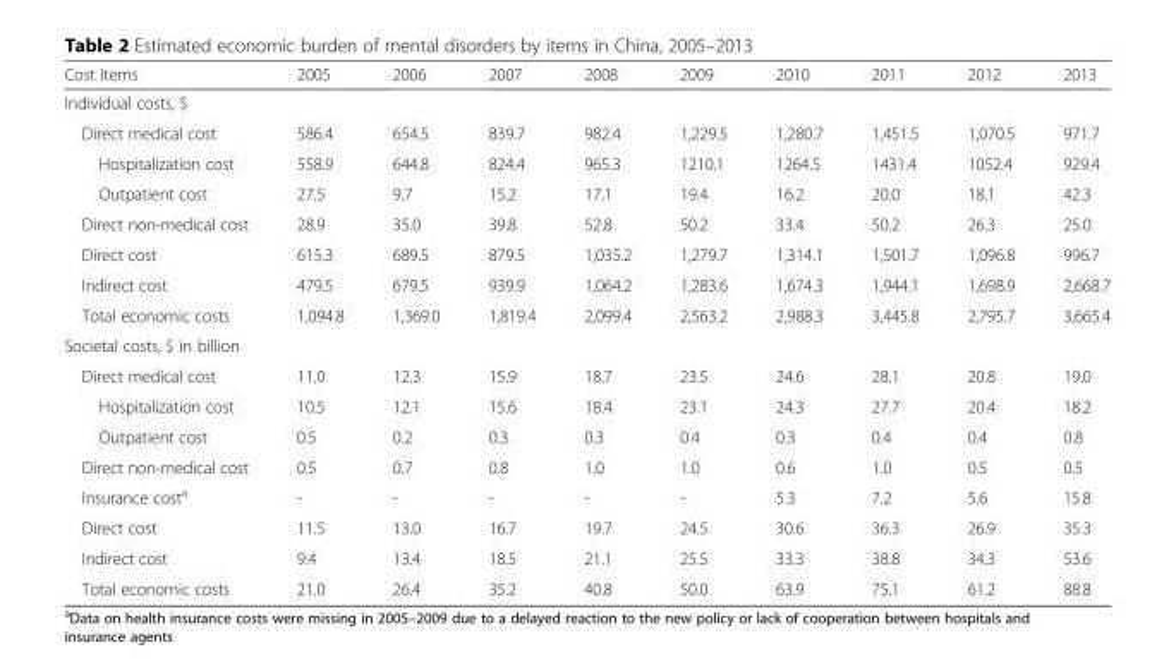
<table><thead><tr><td>Cost items</td><td>2005</td><td>2006</td><td>2007</td><td>2008</td><td>2009</td><td>2010</td><td>2011</td><td>2012</td><td>2013</td></tr></thead><tbody><tr><td colspan="10">Individual costs, $</td></tr><tr><td>Direct medical cost</td><td>586.4</td><td>654.5</td><td>839.7</td><td>982.4</td><td>1,229.5</td><td>1,280.7</td><td>1,451.5</td><td>1,070.5</td><td>971.7</td></tr><tr><td>Hospitalization cost</td><td>558.9</td><td>644.8</td><td>824.4</td><td>965.3</td><td>1210.1</td><td>1264.5</td><td>1431.4</td><td>1052.4</td><td>929.4</td></tr><tr><td>Outpatient cost</td><td>27.5</td><td>9.7</td><td>15.2</td><td>17.1</td><td>19.4</td><td>16.2</td><td>20.0</td><td>18.1</td><td>42.3</td></tr><tr><td>Direct non-medical cost</td><td>28.9</td><td>35.0</td><td>39.8</td><td>52.8</td><td>50.2</td><td>33.4</td><td>50.2</td><td>26.3</td><td>25.0</td></tr><tr><td>Direct cost</td><td>615.3</td><td>689.5</td><td>879.5</td><td>1,035.2</td><td>1,279.7</td><td>1,314.1</td><td>1,501.7</td><td>1,096.8</td><td>996.7</td></tr><tr><td>Indirect cost</td><td>479.5</td><td>679.5</td><td>939.9</td><td>1,064.2</td><td>1,283.6</td><td>1,674.3</td><td>1,944.1</td><td>1,698.9</td><td>2,668.7</td></tr><tr><td>Total economic costs</td><td>1,094.8</td><td>1,369.0</td><td>1,819.4</td><td>2,099.4</td><td>2,563.2</td><td>2,988.3</td><td>3,445.8</td><td>2,795.7</td><td>3,665.4</td></tr><tr><td colspan="10">Societal costs, $ in billion</td></tr><tr><td>Direct medical cost</td><td>11.0</td><td>12.3</td><td>15.9</td><td>18.7</td><td>23.5</td><td>24.6</td><td>28.1</td><td>20.8</td><td>19.0</td></tr><tr><td>Hospitalization cost</td><td>10.5</td><td>12.1</td><td>15.6</td><td>18.4</td><td>23.1</td><td>24.3</td><td>27.7</td><td>20.4</td><td>18.2</td></tr><tr><td>Outpatient cost</td><td>0.5</td><td>0.2</td><td>0.3</td><td>0.3</td><td>0.4</td><td>0.3</td><td>0.4</td><td>0.4</td><td>0.8</td></tr><tr><td>Direct non-medical cost</td><td>0.5</td><td>0.7</td><td>0.8</td><td>1.0</td><td>1.0</td><td>0.6</td><td>1.0</td><td>0.5</td><td>0.5</td></tr><tr><td>Insurance cost<sup>a</sup></td><td>-</td><td>-</td><td>-</td><td>-</td><td>-</td><td>5.3</td><td>7.2</td><td>5.6</td><td>15.8</td></tr><tr><td>Direct cost</td><td>11.5</td><td>13.0</td><td>16.7</td><td>19.7</td><td>24.5</td><td>30.6</td><td>36.3</td><td>26.9</td><td>35.3</td></tr><tr><td>Indirect cost</td><td>9.4</td><td>13.4</td><td>18.5</td><td>21.1</td><td>25.5</td><td>33.3</td><td>38.8</td><td>34.3</td><td>53.6</td></tr><tr><td>Total economic costs</td><td>21.0</td><td>26.4</td><td>35.2</td><td>40.8</td><td>50.0</td><td>63.9</td><td>75.1</td><td>61.2</td><td>88.8</td></tr></tbody></table>